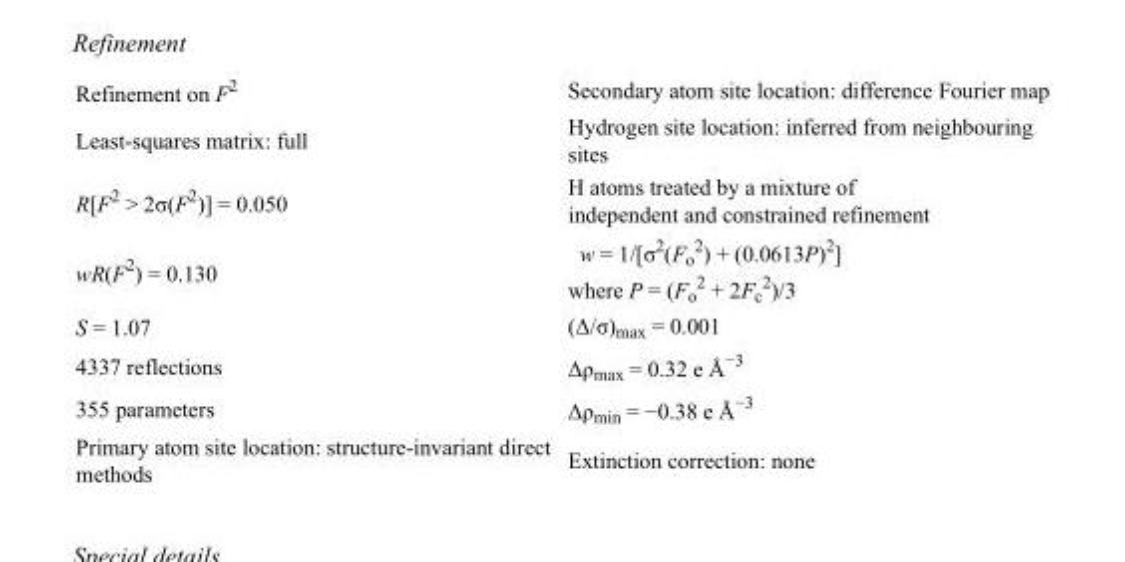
<table><tbody><tr><td>Refinement on F<sup>2</sup></td><td>Secondary atom site location: difference Fourier map</td></tr><tr><td>Least-squares matrix: full</td><td>Hydrogen site location: inferred from neighbouring sites</td></tr><tr><td>R[F<sup>2</sup> &gt; 2σ(F<sup>2</sup>)] = 0.050</td><td>H atoms treated by a mixture of independent and constrained refinement</td></tr><tr><td>wR(F<sup>2</sup>) = 0.130</td><td>w = 1/[σ<sup>2</sup>(F<sub>o</sub> <sup>2</sup>) + (0.0613P)<sup>2</sup>] where P = (F<sub>o</sub> <sup>2</sup> + 2F<sub>c</sub> <sup>2</sup>)/3</td></tr><tr><td>S = 1.07</td><td>(Δ/σ)<sub>max</sub> = 0.001</td></tr><tr><td>4337 reflections</td><td>Δρ<sub>max</sub> = 0.32 e Å<sup>−3</sup></td></tr><tr><td>355 parameters</td><td>Δρ<sub>min</sub> = −0.38 e Å<sup>−3</sup></td></tr><tr><td>Primary atom site location: structure-invariant direct methods</td><td>Extinction correction: none</td></tr></tbody></table>